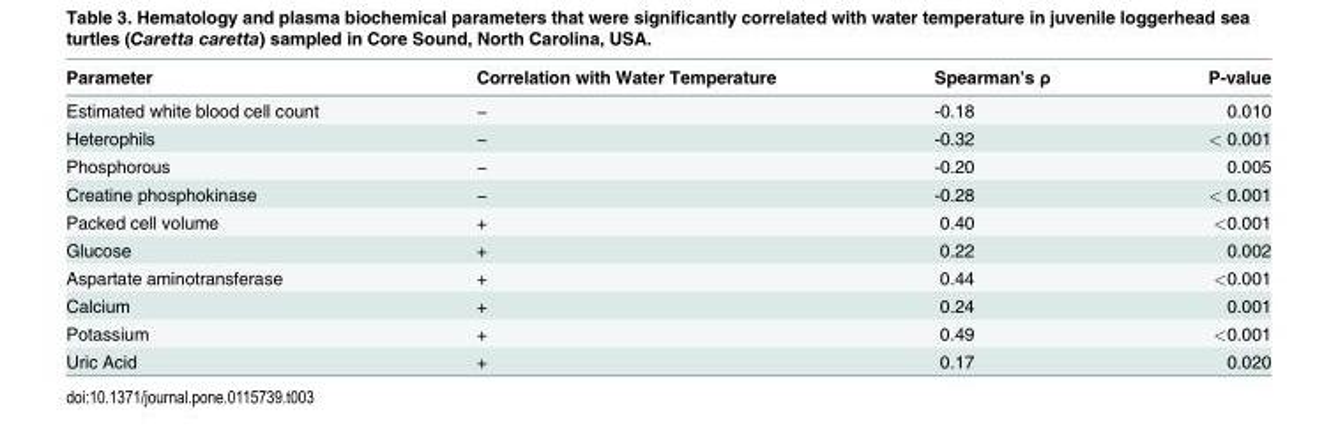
<table><thead><tr><td>Parameter</td><td>Correlation with Water Temperature</td><td>Spearman’s ρ</td><td>P-value</td></tr></thead><tbody><tr><td>Estimated white blood cell count</td><td>−</td><td>-0.18</td><td>0.010</td></tr><tr><td>Heterophils</td><td>−</td><td>-0.32</td><td>&lt; 0.001</td></tr><tr><td>Phosphorous</td><td>−</td><td>-0.20</td><td>0.005</td></tr><tr><td>Creatine phosphokinase</td><td>−</td><td>-0.28</td><td>&lt; 0.001</td></tr><tr><td>Packed cell volume</td><td>+</td><td>0.40</td><td>&lt;0.001</td></tr><tr><td>Glucose</td><td>+</td><td>0.22</td><td>0.002</td></tr><tr><td>Aspartate aminotransferase</td><td>+</td><td>0.44</td><td>&lt;0.001</td></tr><tr><td>Calcium</td><td>+</td><td>0.24</td><td>0.001</td></tr><tr><td>Potassium</td><td>+</td><td>0.49</td><td>&lt;0.001</td></tr><tr><td>Uric Acid</td><td>+</td><td>0.17</td><td>0.020</td></tr></tbody></table>